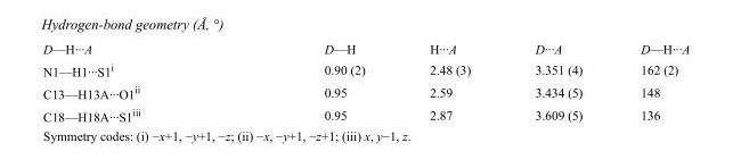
<table><tbody><tr><td>D—H···A</td><td>D—H</td><td>H···A</td><td>D···A</td><td>D—H···A</td></tr><tr><td>N1—H1···S1<sup>i</sup></td><td>0.90 (2)</td><td>2.48 (3)</td><td>3.351 (4)</td><td>162 (2)</td></tr><tr><td>C13—H13A···O1<sup>ii</sup></td><td>0.95</td><td>2.59</td><td>3.434 (5)</td><td>148</td></tr><tr><td>C18—H18A···S1<sup>iii</sup></td><td>0.95</td><td>2.87</td><td>3.609 (5)</td><td>136</td></tr></tbody></table>